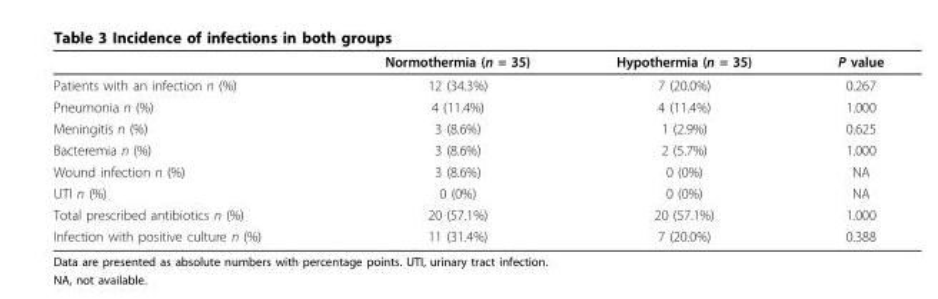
<table><thead><tr><td></td><td>Normothermia (n = 35)</td><td>Hypothermia (n = 35)</td><td>P value</td></tr></thead><tbody><tr><td>Patients with an infection n (%)</td><td>12 (34.3%)</td><td>7 (20.0%)</td><td>0.267</td></tr><tr><td>Pneumonia n (%)</td><td>4 (11.4%)</td><td>4 (11.4%)</td><td>1.000</td></tr><tr><td>Meningitis n (%)</td><td>3 (8.6%)</td><td>1 (2.9%)</td><td>0.625</td></tr><tr><td>Bacteremia n (%)</td><td>3 (8.6%)</td><td>2 (5.7%)</td><td>1.000</td></tr><tr><td>Wound infection n (%)</td><td>3 (8.6%)</td><td>0 (0%)</td><td>NA</td></tr><tr><td>UTI n (%)</td><td>0 (0%)</td><td>0 (0%)</td><td>NA</td></tr><tr><td>Total prescribed antibiotics n (%)</td><td>20 (57.1%)</td><td>20 (57.1%)</td><td>1.000</td></tr><tr><td>Infection with positive culture n (%)</td><td>11 (31.4%)</td><td>7 (20.0%)</td><td>0.388</td></tr></tbody></table>